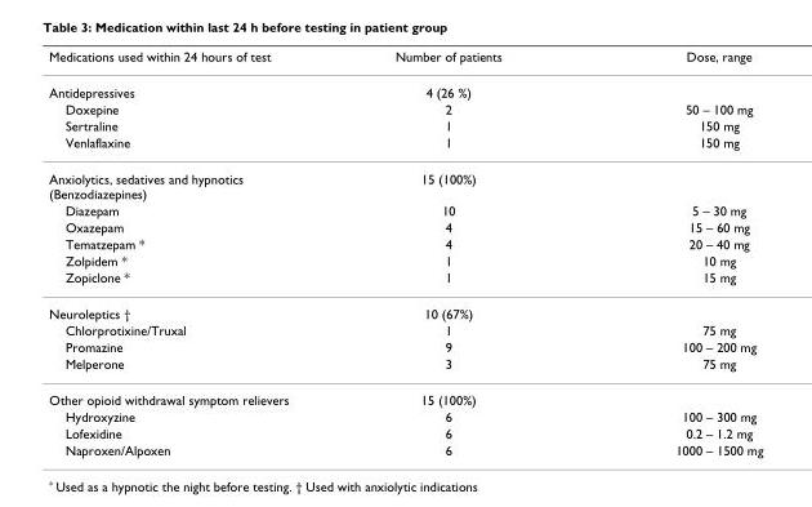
<table><thead><tr><td>Medications used within 24 hours of test</td><td>Number of patients</td><td>Dose, range</td></tr></thead><tbody><tr><td>Antidepressives</td><td>4 (26 %)</td><td></td></tr><tr><td>Doxepine</td><td>2</td><td>50 – 100 mg</td></tr><tr><td>Sertraline</td><td>1</td><td>150 mg</td></tr><tr><td>Venlaflaxine</td><td>1</td><td>150 mg</td></tr><tr><td>Anxiolytics, sedatives and hypnotics (Benzodiazepines)</td><td>15 (100%)</td><td></td></tr><tr><td>Diazepam</td><td>10</td><td>5 – 30 mg</td></tr><tr><td>Oxazepam</td><td>4</td><td>15 – 60 mg</td></tr><tr><td>Tematzepam *</td><td>4</td><td>20 – 40 mg</td></tr><tr><td>Zolpidem *</td><td>1</td><td>10 mg</td></tr><tr><td>Zopiclone *</td><td>1</td><td>15 mg</td></tr><tr><td>Neuroleptics †</td><td>10 (67%)</td><td></td></tr><tr><td>Chlorprotixine/Truxal</td><td>1</td><td>75 mg</td></tr><tr><td>Promazine</td><td>9</td><td>100 – 200 mg</td></tr><tr><td>Melperone</td><td>3</td><td>75 mg</td></tr><tr><td>Other opioid withdrawal symptom relievers</td><td>15 (100%)</td><td></td></tr><tr><td>Hydroxyzine</td><td>6</td><td>100 – 300 mg</td></tr><tr><td>Lofexidine</td><td>6</td><td>0.2 – 1.2 mg</td></tr><tr><td>Naproxen/Alpoxen</td><td>6</td><td>1000 – 1500 mg</td></tr></tbody></table>